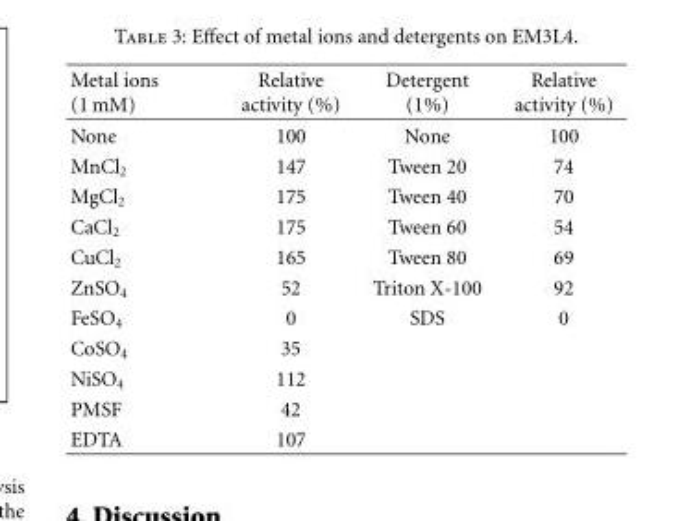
<table><thead><tr><td>Metal ions (1 mM)</td><td>Relative activity (%)</td><td>Detergent (1%)</td><td>Relative activity (%)</td></tr></thead><tbody><tr><td>None</td><td>100</td><td>None</td><td>100</td></tr><tr><td>MnCl<sub>2</sub></td><td>147</td><td>Tween 20</td><td>74</td></tr><tr><td>MgCl<sub>2</sub></td><td>175</td><td>Tween 40</td><td>70</td></tr><tr><td>CaCl<sub>2</sub></td><td>175</td><td>Tween 60</td><td>54</td></tr><tr><td>CuCl<sub>2</sub></td><td>165</td><td>Tween 80</td><td>69</td></tr><tr><td>ZnSO<sub>4</sub></td><td>52</td><td>Triton X-100</td><td>92</td></tr><tr><td>FeSO<sub>4</sub></td><td>0</td><td>SDS</td><td>0</td></tr><tr><td>CoSO<sub>4</sub></td><td>35</td><td></td><td></td></tr><tr><td>NiSO<sub>4</sub></td><td>112</td><td></td><td></td></tr><tr><td>PMSF</td><td>42</td><td></td><td></td></tr><tr><td>EDTA</td><td>107</td><td></td><td></td></tr></tbody></table>